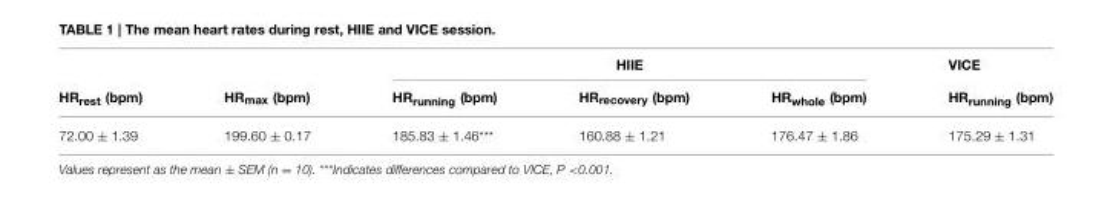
<table><thead><tr><td rowspan="2">HR<sub>rest</sub> (bpm)</td><td rowspan="2">HR<sub>max</sub> (bpm)</td><td colspan="3">HIIE</td><td rowspan="2">VICE HR<sub>running</sub> (bpm)</td></tr><tr><td>HR<sub>running</sub> (bpm)</td><td>HR<sub>recovery</sub> (bpm)</td><td>HR<sub>whole</sub> (bpm)</td></tr></thead><tbody><tr><td>72.00 ± 1.39</td><td>199.60 ± 0.17</td><td>185.83 ± 1.46***</td><td>160.88 ± 1.21</td><td>176.47 ± 1.86</td><td>175.29 ± 1.31</td></tr></tbody></table>